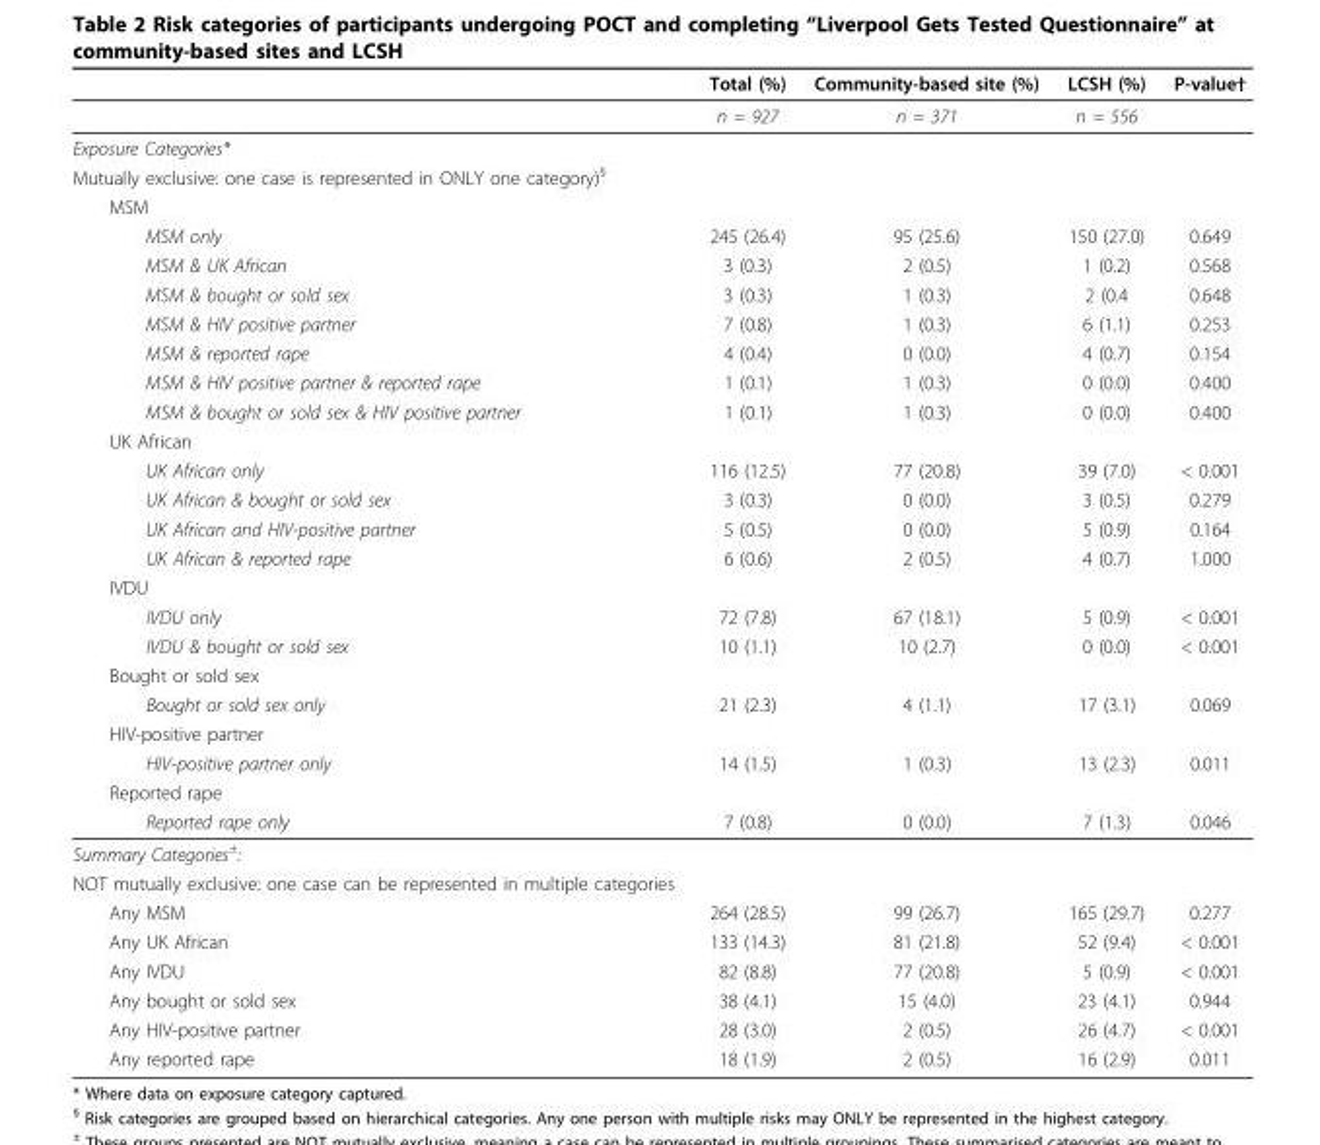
<table><thead><tr><td></td><td>Total (%)</td><td>Community-based site (%)</td><td>LCSH (%)</td><td>P-value†</td></tr></thead><tbody><tr><td></td><td>n = 927</td><td>n = 371</td><td>n = 556</td><td></td></tr><tr><td colspan="5">Exposure Categories*</td></tr><tr><td colspan="5">Mutually exclusive: one case is represented in ONLY one category)<sup>§</sup></td></tr><tr><td colspan="5">MSM</td></tr><tr><td>MSM only</td><td>245 (26.4)</td><td>95 (25.6)</td><td>150 (27.0)</td><td>0.649</td></tr><tr><td>MSM &amp; UK African</td><td>3 (0.3)</td><td>2 (0.5)</td><td>1 (0.2)</td><td>0.568</td></tr><tr><td>MSM &amp; bought or sold sex</td><td>3 (0.3)</td><td>1 (0.3)</td><td>2 (0.4</td><td>0.648</td></tr><tr><td>MSM &amp; HIV positive partner</td><td>7 (0.8)</td><td>1 (0.3)</td><td>6 (1.1)</td><td>0.253</td></tr><tr><td>MSM &amp; reported rape</td><td>4 (0.4)</td><td>0 (0.0)</td><td>4 (0.7)</td><td>0.154</td></tr><tr><td>MSM &amp; HIV positive partner &amp; reported rape</td><td>1 (0.1)</td><td>1 (0.3)</td><td>0 (0.0)</td><td>0.400</td></tr><tr><td>MSM &amp; bought or sold sex &amp; HIV positive partner</td><td>1 (0.1)</td><td>1 (0.3)</td><td>0 (0.0)</td><td>0.400</td></tr><tr><td colspan="5">UK African</td></tr><tr><td>UK African only</td><td>116 (12.5)</td><td>77 (20.8)</td><td>39 (7.0)</td><td>&lt; 0.001</td></tr><tr><td>UK African &amp; bought or sold sex</td><td>3 (0.3)</td><td>0 (0.0)</td><td>3 (0.5)</td><td>0.279</td></tr><tr><td>UK African and HIV-positive partner</td><td>5 (0.5)</td><td>0 (0.0)</td><td>5 (0.9)</td><td>0.164</td></tr><tr><td>UK African &amp; reported rape</td><td>6 (0.6)</td><td>2 (0.5)</td><td>4 (0.7)</td><td>1.000</td></tr><tr><td colspan="5">IVDU</td></tr><tr><td>IVDU only</td><td>72 (7.8)</td><td>67 (18.1)</td><td>5 (0.9)</td><td>&lt; 0.001</td></tr><tr><td>IVDU &amp; bought or sold sex</td><td>10 (1.1)</td><td>10 (2.7)</td><td>0 (0.0)</td><td>&lt; 0.001</td></tr><tr><td colspan="5">Bought or sold sex</td></tr><tr><td>Bought or sold sex only</td><td>21 (2.3)</td><td>4 (1.1)</td><td>17 (3.1)</td><td>0.069</td></tr><tr><td colspan="5">HIV-positive partner</td></tr><tr><td>HIV-positive partner only</td><td>14 (1.5)</td><td>1 (0.3)</td><td>13 (2.3)</td><td>0.011</td></tr><tr><td colspan="5">Reported rape</td></tr><tr><td>Reported rape only</td><td>7 (0.8)</td><td>0 (0.0)</td><td>7 (1.3)</td><td>0.046</td></tr><tr><td colspan="5">Summary Categories<sup>±</sup>:</td></tr><tr><td colspan="5">NOT mutually exclusive: one case can be represented in multiple categories</td></tr><tr><td>Any MSM</td><td>264 (28.5)</td><td>99 (26.7)</td><td>165 (29.7)</td><td>0.277</td></tr><tr><td>Any UK African</td><td>133 (14.3)</td><td>81 (21.8)</td><td>52 (9.4)</td><td>&lt; 0.001</td></tr><tr><td>Any IVDU</td><td>82 (8.8)</td><td>77 (20.8)</td><td>5 (0.9)</td><td>&lt; 0.001</td></tr><tr><td>Any bought or sold sex</td><td>38 (4.1)</td><td>15 (4.0)</td><td>23 (4.1)</td><td>0.944</td></tr><tr><td>Any HIV-positive partner</td><td>28 (3.0)</td><td>2 (0.5)</td><td>26 (4.7)</td><td>&lt; 0.001</td></tr><tr><td>Any reported rape</td><td>18 (1.9)</td><td>2 (0.5)</td><td>16 (2.9)</td><td>0.011</td></tr></tbody></table>